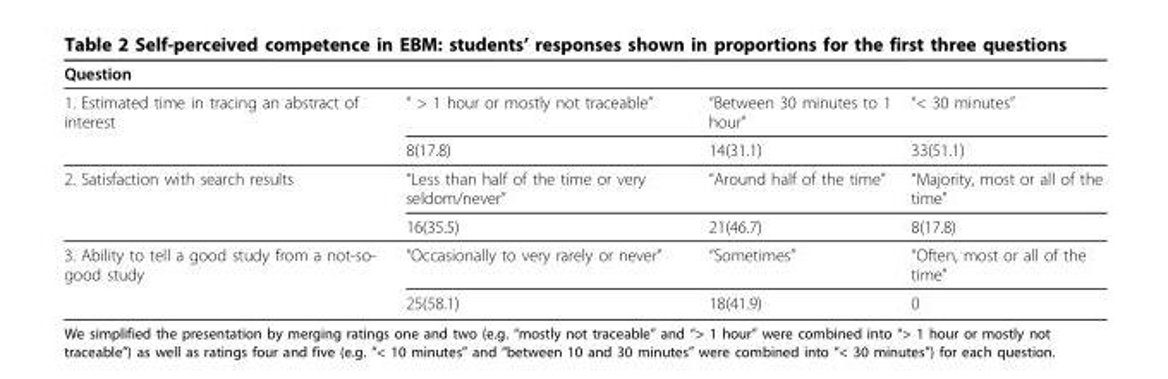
<table><thead><tr><td>Question</td><td></td><td></td><td></td></tr></thead><tbody><tr><td rowspan="2">1. Estimated time in tracing an abstract of interest</td><td>“ &gt; 1 hour or mostly not traceable”</td><td>“Between 30 minutes to 1 hour”</td><td>“&lt; 30 minutes”</td></tr><tr><td>8(17.8)</td><td>14(31.1)</td><td>33(51.1)</td></tr><tr><td rowspan="2">2. Satisfaction with search results</td><td>“Less than half of the time or very seldom/never”</td><td>“Around half of the time”</td><td>“Majority, most or all of the time”</td></tr><tr><td>16(35.5)</td><td>21(46.7)</td><td>8(17.8)</td></tr><tr><td rowspan="2">3. Ability to tell a good study from a not-so- good study</td><td>“Occasionally to very rarely or never”</td><td>“Sometimes”</td><td>“Often, most or all of the time”</td></tr><tr><td>25(58.1)</td><td>18(41.9)</td><td>0</td></tr></tbody></table>